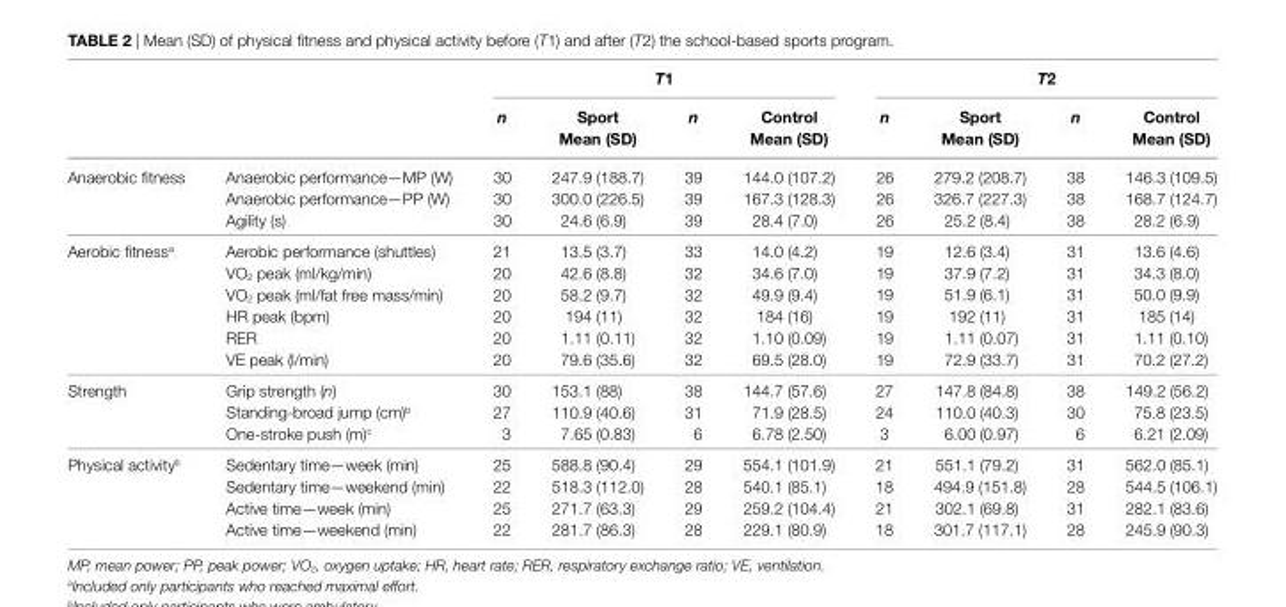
<table><thead><tr><td rowspan="2"></td><td rowspan="2"></td><td colspan="4">T1</td><td colspan="4">T2</td></tr><tr><td>n</td><td>Sport Mean (SD)</td><td>n</td><td>Control Mean (SD)</td><td>n</td><td>Sport Mean (SD)</td><td>n</td><td>Control Mean (SD)</td></tr></thead><tbody><tr><td>Anaerobic fitness</td><td>Anaerobic performance—MP (W) Anaerobic performance—PP (W) Agility (s)</td><td>30 30 30</td><td>247.9 (188.7) 300.0 (226.5) 24.6 (6.9)</td><td>39 39 39</td><td>144.0 (107.2) 167.3 (128.3) 28.4 (7.0)</td><td>26 26 26</td><td>279.2 (208.7) 326.7 (227.3) 25.2 (8.4)</td><td>38 38 38</td><td>146.3 (109.5) 168.7 (124.7) 28.2 (6.9)</td></tr><tr><td>Aerobic fitness<sup>a</sup></td><td>Aerobic performance (shuttles) VO<sub>2</sub> peak (ml/kg/min) VO<sub>2</sub> peak (ml/fat free mass/min) HR peak (bpm) RER VE peak (l/min)</td><td>21 20 20 20 20 20</td><td>13.5 (3.7) 42.6 (8.8) 58.2 (9.7) 194 (11) 1.11 (0.11) 79.6 (35.6)</td><td>33 32 32 32 32 32</td><td>14.0 (4.2) 34.6 (7.0) 49.9 (9.4) 184 (16) 1.10 (0.09) 69.5 (28.0)</td><td>19 19 19 19 19 19</td><td>12.6 (3.4) 37.9 (7.2) 51.9 (6.1) 192 (11) 1.11 (0.07) 72.9 (33.7)</td><td>31 31 31 31 31 31</td><td>13.6 (4.6) 34.3 (8.0) 50.0 (9.9) 185 (14) 1.11 (0.10) 70.2 (27.2)</td></tr><tr><td>Strength</td><td>Grip strength (n) Standing-broad jump (cm)<sup>b</sup> One-stroke push (m)<sup>c</sup></td><td>30 27 3</td><td>153.1 (88) 110.9 (40.6) 7.65 (0.83)</td><td>38 31 6</td><td>144.7 (57.6) 71.9 (28.5) 6.78 (2.50)</td><td>27 24 3</td><td>147.8 (84.8) 110.0 (40.3) 6.00 (0.97)</td><td>38 30 6</td><td>149.2 (56.2) 75.8 (23.5) 6.21 (2.09)</td></tr><tr><td>Physical activity<sup>b</sup></td><td>Sedentary time—week (min) Sedentary time—weekend (min) Active time—week (min) Active time—weekend (min)</td><td>25 22 25 22</td><td>588.8 (90.4) 518.3 (112.0) 271.7 (63.3) 281.7 (86.3)</td><td>29 28 29 28</td><td>554.1 (101.9) 540.1 (85.1) 259.2 (104.4) 229.1 (80.9)</td><td>21 18 21 18</td><td>551.1 (79.2) 494.9 (151.8) 302.1 (69.8) 301.7 (117.1)</td><td>31 28 31 28</td><td>562.0 (85.1) 544.5 (106.1) 282.1 (83.6) 245.9 (90.3)</td></tr></tbody></table>